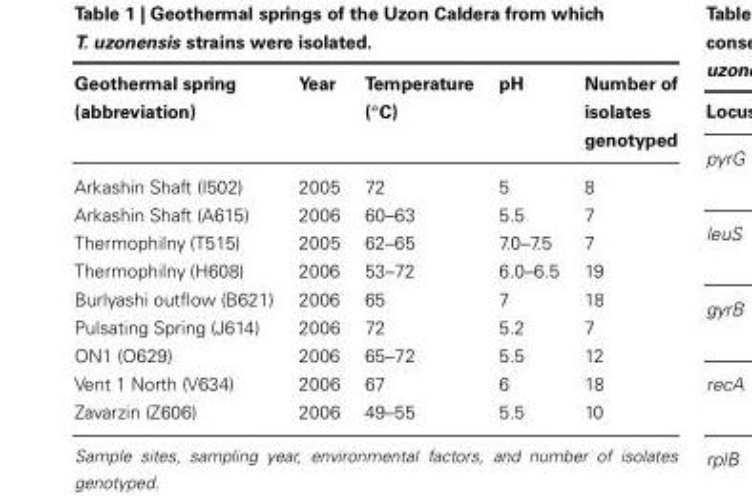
<table><thead><tr><td>Geothermal spring (abbreviation)</td><td>Year</td><td>Temperature (◦C)</td><td>pH</td><td>Number of isolates genotyped</td></tr></thead><tbody><tr><td>Arkashin Shaft (I502)</td><td>2005</td><td>72</td><td>5</td><td>8</td></tr><tr><td>Arkashin Shaft (A615)</td><td>2006</td><td>60–63</td><td>5.5</td><td>7</td></tr><tr><td>Thermophilny (T515)</td><td>2005</td><td>62–65</td><td>7.0–7.5</td><td>7</td></tr><tr><td>Thermophilny (H608)</td><td>2006</td><td>53–72</td><td>6.0–6.5</td><td>19</td></tr><tr><td>Burlyashi outflow (B621)</td><td>2006</td><td>65</td><td>7</td><td>18</td></tr><tr><td>Pulsating Spring (J614)</td><td>2006</td><td>72</td><td>5.2</td><td>7</td></tr><tr><td>ON1 (O629)</td><td>2006</td><td>65–72</td><td>5.5</td><td>12</td></tr><tr><td>Vent 1 North (V634)</td><td>2006</td><td>67</td><td>6</td><td>18</td></tr><tr><td>Zavarzin (Z606)</td><td>2006</td><td>49–55</td><td>5.5</td><td>10</td></tr></tbody></table>